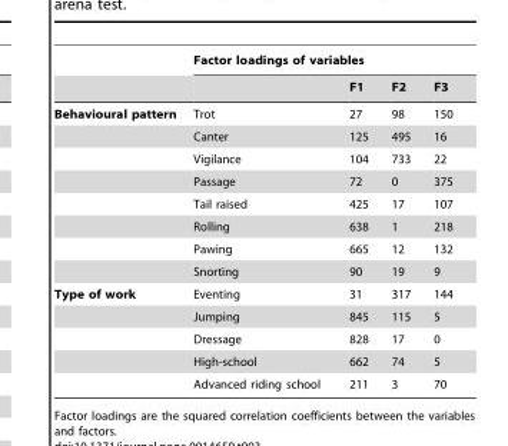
<table><thead><tr><td rowspan="2"></td><td colspan="4">Factor loadings of variables</td></tr><tr><td></td><td>F1</td><td>F2</td><td>F3</td></tr></thead><tbody><tr><td rowspan="8">Behavioural pattern</td><td>Trot</td><td>27</td><td>98</td><td>150</td></tr><tr><td>Canter</td><td>125</td><td>495</td><td>16</td></tr><tr><td>Vigilance</td><td>104</td><td>733</td><td>22</td></tr><tr><td>Passage</td><td>72</td><td>0</td><td>375</td></tr><tr><td>Tail raised</td><td>425</td><td>17</td><td>107</td></tr><tr><td>Rolling</td><td>638</td><td>1</td><td>218</td></tr><tr><td>Pawing</td><td>665</td><td>12</td><td>132</td></tr><tr><td>Snorting</td><td>90</td><td>19</td><td>9</td></tr><tr><td rowspan="5">Type of work</td><td>Eventing</td><td>31</td><td>317</td><td>144</td></tr><tr><td>Jumping</td><td>845</td><td>115</td><td>5</td></tr><tr><td>Dressage</td><td>828</td><td>17</td><td>0</td></tr><tr><td>High-school</td><td>662</td><td>74</td><td>5</td></tr><tr><td>Advanced riding school</td><td>211</td><td>3</td><td>70</td></tr></tbody></table>